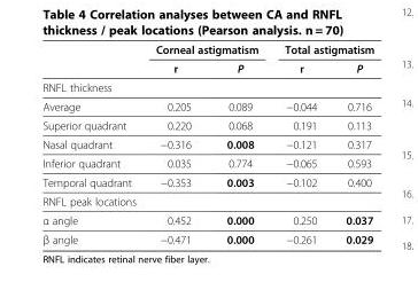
<table><thead><tr><td rowspan="2"></td><td colspan="2">Corneal astigmatism</td><td colspan="2">Total astigmatism</td></tr><tr><td>r</td><td>P</td><td>r</td><td>P</td></tr></thead><tbody><tr><td colspan="5">RNFL thickness</td></tr><tr><td>Average</td><td>0.205</td><td>0.089</td><td>−0.044</td><td>0.716</td></tr><tr><td>Superior quadrant</td><td>0.220</td><td>0.068</td><td>0.191</td><td>0.113</td></tr><tr><td>Nasal quadrant</td><td>−0.316</td><td>0.008</td><td>−0.121</td><td>0.317</td></tr><tr><td>Inferior quadrant</td><td>0.035</td><td>0.774</td><td>−0.065</td><td>0.593</td></tr><tr><td>Temporal quadrant</td><td>−0.353</td><td>0.003</td><td>−0.102</td><td>0.400</td></tr><tr><td colspan="5">RNFL peak locations</td></tr><tr><td>α angle</td><td>0.452</td><td>0.000</td><td>0.250</td><td>0.037</td></tr><tr><td>β angle</td><td>−0.471</td><td>0.000</td><td>−0.261</td><td>0.029</td></tr></tbody></table>